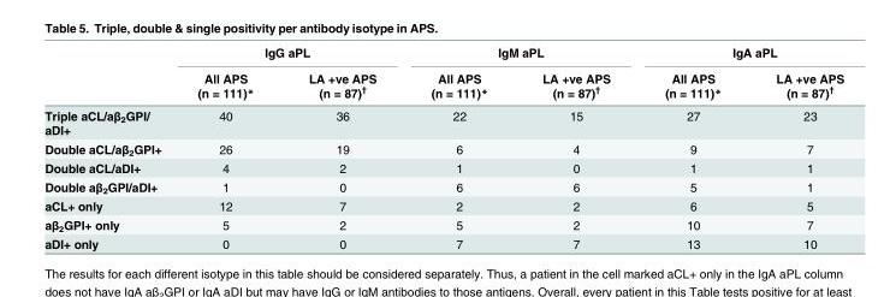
<table><thead><tr><td rowspan="2"></td><td colspan="2">IgG aPL</td><td colspan="2">IgM aPL</td><td colspan="2">IgA aPL</td></tr><tr><td>All APS (n = 111)*</td><td>LA +ve APS (n = 87)<sup>†</sup></td><td>All APS (n = 111)*</td><td>LA +ve APS (n = 87)<sup>†</sup></td><td>All APS (n = 111)*</td><td>LA +ve APS (n = 87)<sup>†</sup></td></tr></thead><tbody><tr><td>Triple aCL/aβ<sub>2</sub>GPI/ aDI+</td><td>40</td><td>36</td><td>22</td><td>15</td><td>27</td><td>23</td></tr><tr><td>Double aCL/aβ<sub>2</sub>GPI+</td><td>26</td><td>19</td><td>6</td><td>4</td><td>9</td><td>7</td></tr><tr><td>Double aCL/aDI+</td><td>4</td><td>2</td><td>1</td><td>0</td><td>1</td><td>1</td></tr><tr><td>Double aβ<sub>2</sub>GPI/aDI+</td><td>1</td><td>0</td><td>6</td><td>6</td><td>5</td><td>1</td></tr><tr><td>aCL+ only</td><td>12</td><td>7</td><td>2</td><td>2</td><td>6</td><td>5</td></tr><tr><td>aβ<sub>2</sub>GPI+ only</td><td>5</td><td>2</td><td>5</td><td>2</td><td>10</td><td>7</td></tr><tr><td>aDI+ only</td><td>0</td><td>0</td><td>7</td><td>7</td><td>13</td><td>10</td></tr></tbody></table>